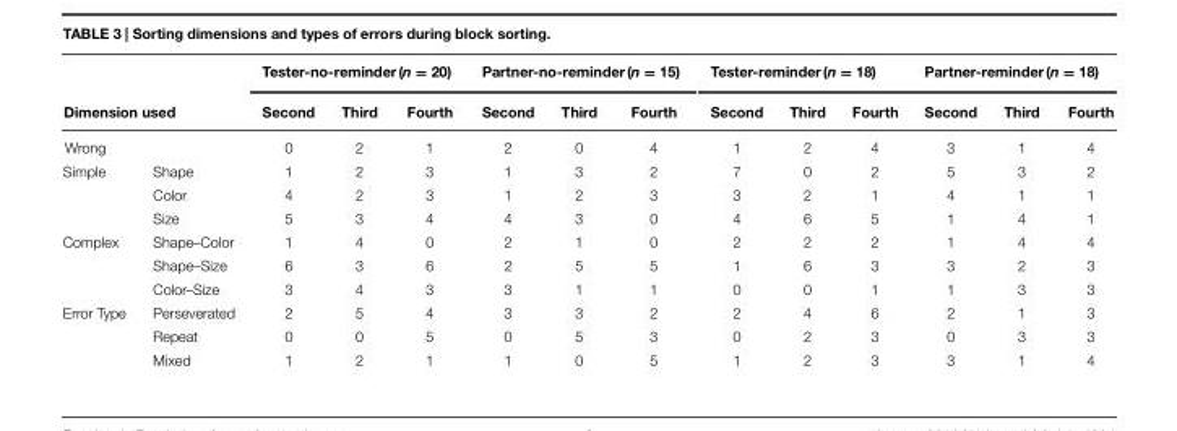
<table><thead><tr><td></td><td></td><td colspan="3">Tester-no-reminder(n = 20)</td><td colspan="3">Partner-no-reminder(n = 15)</td><td colspan="3">Tester-reminder(n = 18)</td><td colspan="3">Partner-reminder(n = 18)</td></tr><tr><td colspan="2">Dimension used</td><td>Second</td><td>Third</td><td>Fourth</td><td>Second</td><td>Third</td><td>Fourth</td><td>Second</td><td>Third</td><td>Fourth</td><td>Second</td><td>Third</td><td>Fourth</td></tr></thead><tbody><tr><td colspan="2">Wrong</td><td>0</td><td>2</td><td>1</td><td>2</td><td>0</td><td>4</td><td>1</td><td>2</td><td>4</td><td>3</td><td>1</td><td>4</td></tr><tr><td rowspan="3">Simple</td><td>Shape</td><td>1</td><td>2</td><td>3</td><td>1</td><td>3</td><td>2</td><td>7</td><td>0</td><td>2</td><td>5</td><td>3</td><td>2</td></tr><tr><td>Color</td><td>4</td><td>2</td><td>3</td><td>1</td><td>2</td><td>3</td><td>3</td><td>2</td><td>1</td><td>4</td><td>1</td><td>1</td></tr><tr><td>Size</td><td>5</td><td>3</td><td>4</td><td>4</td><td>3</td><td>0</td><td>4</td><td>6</td><td>5</td><td>1</td><td>4</td><td>1</td></tr><tr><td rowspan="3">Complex</td><td>Shape–Color</td><td>1</td><td>4</td><td>0</td><td>2</td><td>1</td><td>0</td><td>2</td><td>2</td><td>2</td><td>1</td><td>4</td><td>4</td></tr><tr><td>Shape–Size</td><td>6</td><td>3</td><td>6</td><td>2</td><td>5</td><td>5</td><td>1</td><td>6</td><td>3</td><td>3</td><td>2</td><td>3</td></tr><tr><td>Color–Size</td><td>3</td><td>4</td><td>3</td><td>3</td><td>1</td><td>1</td><td>0</td><td>0</td><td>1</td><td>1</td><td>3</td><td>3</td></tr><tr><td rowspan="3">Error Type</td><td>Perseverated</td><td>2</td><td>5</td><td>4</td><td>3</td><td>3</td><td>2</td><td>2</td><td>4</td><td>6</td><td>2</td><td>1</td><td>3</td></tr><tr><td>Repeat</td><td>0</td><td>0</td><td>5</td><td>0</td><td>5</td><td>3</td><td>0</td><td>2</td><td>3</td><td>0</td><td>3</td><td>3</td></tr><tr><td>Mixed</td><td>1</td><td>2</td><td>1</td><td>1</td><td>0</td><td>5</td><td>1</td><td>2</td><td>3</td><td>3</td><td>1</td><td>4</td></tr></tbody></table>